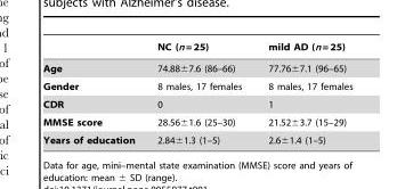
<table><thead><tr><td></td><td>NC (n = 25)</td><td>mild AD (n = 25)</td></tr></thead><tbody><tr><td>Age</td><td>74.88±7.6 (86–66)</td><td>77.76±7.1 (96–65)</td></tr><tr><td>Gender</td><td>8 males, 17 females</td><td>8 males, 17 females</td></tr><tr><td>CDR</td><td>0</td><td>1</td></tr><tr><td>MMSE score</td><td>28.56±1.6 (25–30)</td><td>21.52±3.7 (15–29)</td></tr><tr><td>Years of education</td><td>2.84±1.3 (1–5)</td><td>2.6±1.4 (1–5)</td></tr></tbody></table>